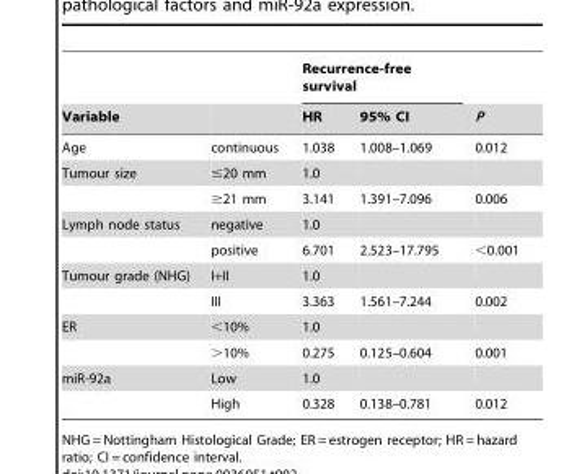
<table><thead><tr><td rowspan="2">Variable</td><td rowspan="2"></td><td colspan="2">Recurrence-free survival</td><td rowspan="2">P</td></tr><tr><td>HR</td><td>95% CI</td></tr></thead><tbody><tr><td>Age</td><td>continuous</td><td>1.038</td><td>1.008–1.069</td><td>0.012</td></tr><tr><td rowspan="2">Tumour size</td><td>≤20 mm</td><td>1.0</td><td></td><td></td></tr><tr><td>≥21 mm</td><td>3.141</td><td>1.391–7.096</td><td>0.006</td></tr><tr><td rowspan="2">Lymph node status</td><td>negative</td><td>1.0</td><td></td><td></td></tr><tr><td>positive</td><td>6.701</td><td>2.523–17.795</td><td>&lt;0.001</td></tr><tr><td rowspan="2">Tumour grade (NHG)</td><td>I+II</td><td>1.0</td><td></td><td></td></tr><tr><td>III</td><td>3.363</td><td>1.561–7.244</td><td>0.002</td></tr><tr><td rowspan="2">ER</td><td>&lt;10%</td><td>1.0</td><td></td><td></td></tr><tr><td>&gt;10%</td><td>0.275</td><td>0.125–0.604</td><td>0.001</td></tr><tr><td rowspan="2">miR-92a</td><td>Low</td><td>1.0</td><td></td><td></td></tr><tr><td>High</td><td>0.328</td><td>0.138–0.781</td><td>0.012</td></tr></tbody></table>